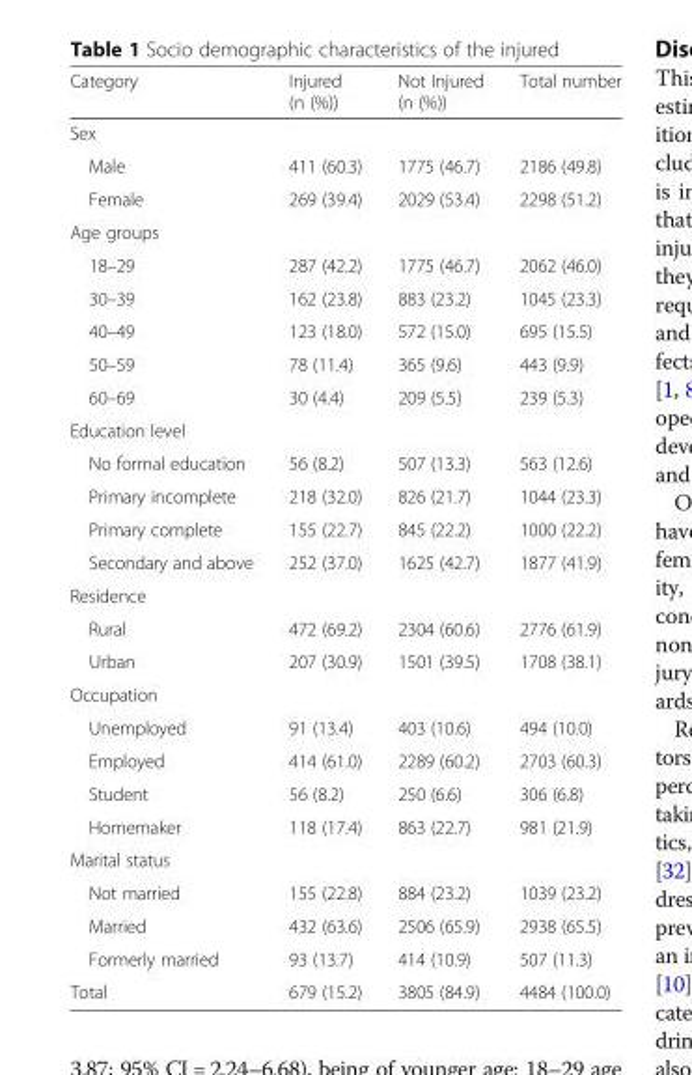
<table><thead><tr><td>Category</td><td>Injured (n (%))</td><td>Not Injured (n (%))</td><td>Total number</td></tr></thead><tbody><tr><td colspan="4">Sex</td></tr><tr><td>Male</td><td>411 (60.3)</td><td>1775 (46.7)</td><td>2186 (49.8)</td></tr><tr><td>Female</td><td>269 (39.4)</td><td>2029 (53.4)</td><td>2298 (51.2)</td></tr><tr><td colspan="4">Age groups</td></tr><tr><td>18–29</td><td>287 (42.2)</td><td>1775 (46.7)</td><td>2062 (46.0)</td></tr><tr><td>30–39</td><td>162 (23.8)</td><td>883 (23.2)</td><td>1045 (23.3)</td></tr><tr><td>40–49</td><td>123 (18.0)</td><td>572 (15.0)</td><td>695 (15.5)</td></tr><tr><td>50–59</td><td>78 (11.4)</td><td>365 (9.6)</td><td>443 (9.9)</td></tr><tr><td>60–69</td><td>30 (4.4)</td><td>209 (5.5)</td><td>239 (5.3)</td></tr><tr><td colspan="4">Education level</td></tr><tr><td>No formal education</td><td>56 (8.2)</td><td>507 (13.3)</td><td>563 (12.6)</td></tr><tr><td>Primary incomplete</td><td>218 (32.0)</td><td>826 (21.7)</td><td>1044 (23.3)</td></tr><tr><td>Primary complete</td><td>155 (22.7)</td><td>845 (22.2)</td><td>1000 (22.2)</td></tr><tr><td>Secondary and above</td><td>252 (37.0)</td><td>1625 (42.7)</td><td>1877 (41.9)</td></tr><tr><td colspan="4">Residence</td></tr><tr><td>Rural</td><td>472 (69.2)</td><td>2304 (60.6)</td><td>2776 (61.9)</td></tr><tr><td>Urban</td><td>207 (30.9)</td><td>1501 (39.5)</td><td>1708 (38.1)</td></tr><tr><td colspan="4">Occupation</td></tr><tr><td>Unemployed</td><td>91 (13.4)</td><td>403 (10.6)</td><td>494 (10.0)</td></tr><tr><td>Employed</td><td>414 (61.0)</td><td>2289 (60.2)</td><td>2703 (60.3)</td></tr><tr><td>Student</td><td>56 (8.2)</td><td>250 (6.6)</td><td>306 (6.8)</td></tr><tr><td>Homemaker</td><td>118 (17.4)</td><td>863 (22.7)</td><td>981 (21.9)</td></tr><tr><td colspan="4">Marital status</td></tr><tr><td>Not married</td><td>155 (22.8)</td><td>884 (23.2)</td><td>1039 (23.2)</td></tr><tr><td>Married</td><td>432 (63.6)</td><td>2506 (65.9)</td><td>2938 (65.5)</td></tr><tr><td>Formerly married</td><td>93 (13.7)</td><td>414 (10.9)</td><td>507 (11.3)</td></tr><tr><td>Total</td><td>679 (15.2)</td><td>3805 (84.9)</td><td>4484 (100.0)</td></tr></tbody></table>